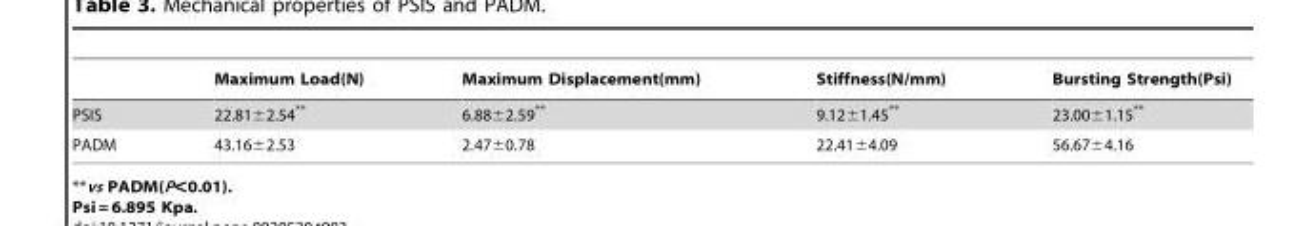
<table><thead><tr><td></td><td>Maximum Load(N)</td><td>Maximum Displacement(mm)</td><td>Stiffness(N/mm)</td><td>Bursting Strength(Psi)</td></tr></thead><tbody><tr><td>PSIS</td><td>22.81±2.54**</td><td>6.88±2.59**</td><td>9.12±1.45**</td><td>23.00±1.15**</td></tr><tr><td>PADM</td><td>43.16±2.53</td><td>2.47±0.78</td><td>22.41±4.09</td><td>56.67±4.16</td></tr></tbody></table>